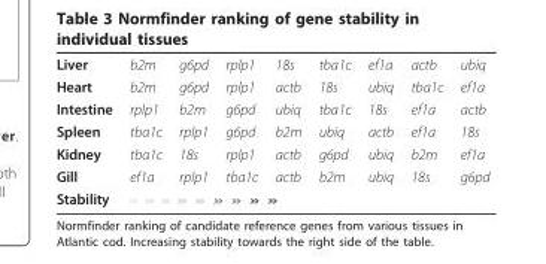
<table><tbody><tr><td>Liver</td><td>b2m</td><td>g6pd</td><td>rplp1</td><td>18s</td><td>tba1c</td><td>ef1a</td><td>actb</td><td>ubiq</td></tr><tr><td>Heart</td><td>b2m</td><td>g6pd</td><td>rplp1</td><td>actb</td><td>18s</td><td>ubiq</td><td>tba1c</td><td>ef1a</td></tr><tr><td>Intestine</td><td>rplp1</td><td>b2m</td><td>g6pd</td><td>ubiq</td><td>tba1c</td><td>18s</td><td>ef1a</td><td>actb</td></tr><tr><td>Spleen</td><td>tba1c</td><td>rplp1</td><td>g6pd</td><td>b2m</td><td>ubiq</td><td>actb</td><td>ef1a</td><td>18s</td></tr><tr><td>Kidney</td><td>tba1c</td><td>18s</td><td>rplp1</td><td>actb</td><td>g6pd</td><td>ubiq</td><td>b2m</td><td>ef1a</td></tr><tr><td>Gill</td><td>ef1a</td><td>rplp1</td><td>tba1c</td><td>actb</td><td>b2m</td><td>ubiq</td><td>18s</td><td>g6pd</td></tr><tr><td>Stability</td><td colspan="8"></td></tr></tbody></table>